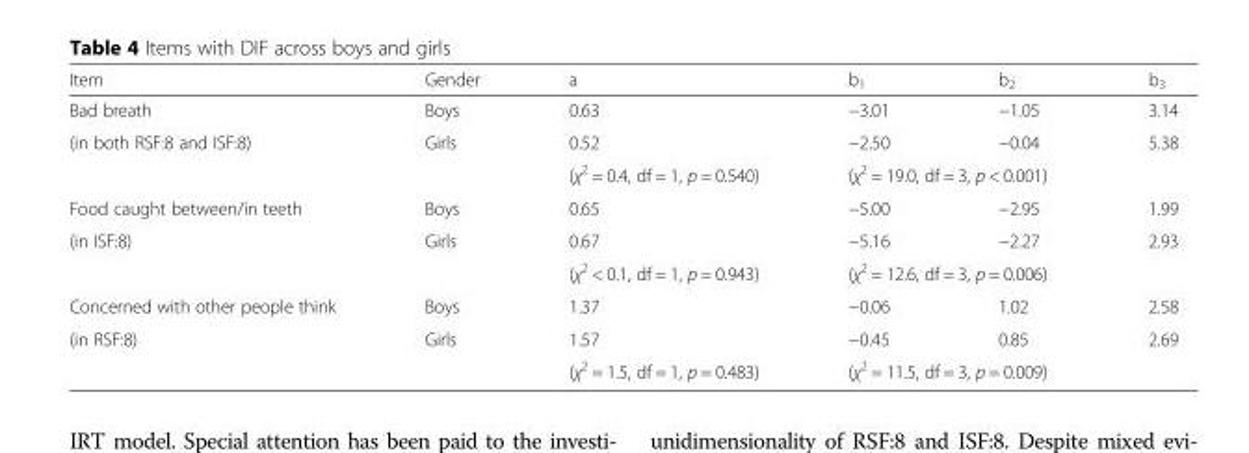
<table><thead><tr><td>Item</td><td>Gender</td><td>a</td><td>b<sub>1</sub></td><td>b<sub>2</sub></td><td>b<sub>3</sub></td></tr></thead><tbody><tr><td>Bad breath</td><td>Boys</td><td>0.63</td><td>−3.01</td><td>−1.05</td><td>3.14</td></tr><tr><td rowspan="2">(in both RSF:8 and ISF:8)</td><td>Girls</td><td>0.52</td><td>−2.50</td><td>−0.04</td><td>5.38</td></tr><tr><td></td><td>(χ<sup>2</sup> = 0.4, df = 1, p = 0.540)</td><td colspan="3">(χ<sup>2</sup> = 19.0, df = 3, p &lt; 0.001)</td></tr><tr><td>Food caught between/in teeth</td><td>Boys</td><td>0.65</td><td>−5.00</td><td>−2.95</td><td>1.99</td></tr><tr><td rowspan="2">(in ISF:8)</td><td>Girls</td><td>0.67</td><td>−5.16</td><td>−2.27</td><td>2.93</td></tr><tr><td></td><td>(χ<sup>2</sup> &lt; 0.1, df = 1, p = 0.943)</td><td colspan="3">(χ<sup>2</sup> = 12.6, df = 3, p = 0.006)</td></tr><tr><td>Concerned with other people think</td><td>Boys</td><td>1.37</td><td>−0.06</td><td>1.02</td><td>2.58</td></tr><tr><td rowspan="2">(in RSF:8)</td><td>Girls</td><td>1.57</td><td>−0.45</td><td>0.85</td><td>2.69</td></tr><tr><td></td><td>(χ<sup>2</sup> = 1.5, df = 1, p = 0.483)</td><td colspan="3">(χ<sup>2</sup> = 11.5, df = 3, p = 0.009)</td></tr></tbody></table>